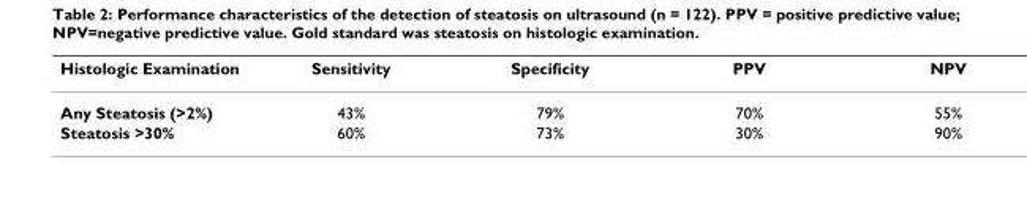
<table><thead><tr><td>Histologic Examination</td><td>Sensitivity</td><td>Specificity</td><td>PPV</td><td>NPV</td></tr></thead><tbody><tr><td>Any Steatosis (&gt;2%)</td><td>43%</td><td>79%</td><td>70%</td><td>55%</td></tr><tr><td>Steatosis &gt;30%</td><td>60%</td><td>73%</td><td>30%</td><td>90%</td></tr></tbody></table>